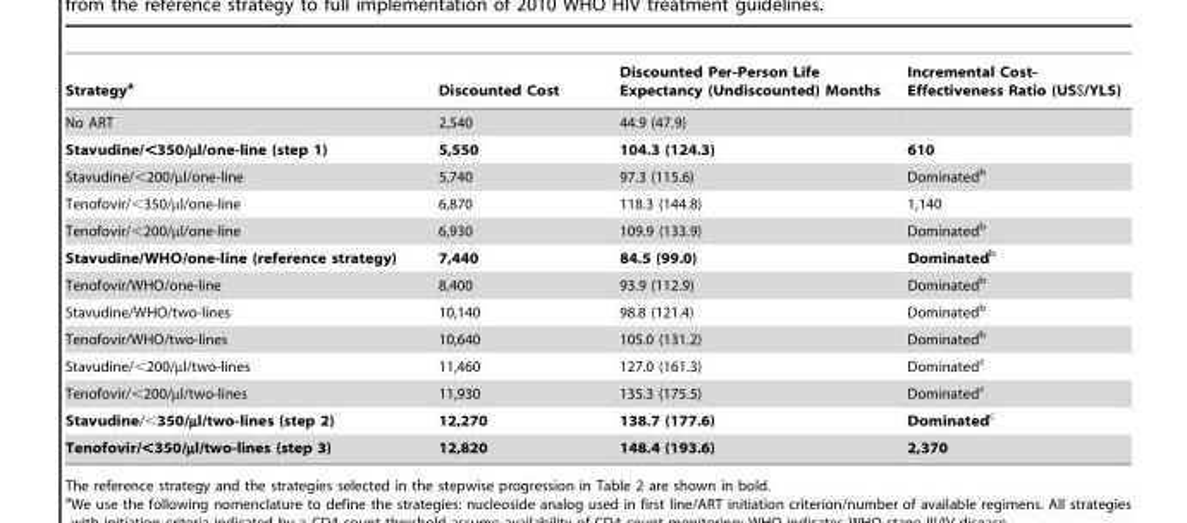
<table><thead><tr><td>Strategy<sup>a</sup></td><td>Discounted Cost</td><td>Discounted Per-Person Life Expectancy (Undiscounted) Months</td><td>Incremental Cost- Effectiveness Ratio (US$/YLS)</td></tr></thead><tbody><tr><td>No ART</td><td>2,540</td><td>44.9 (47.9)</td><td></td></tr><tr><td>Stavudine/&lt;350/µl/one-line (step 1)</td><td>5,550</td><td>104.3 (124.3)</td><td>610</td></tr><tr><td>Stavudine/&lt;200/µl/one-line</td><td>5,740</td><td>97.3 (115.6)</td><td>Dominated<sup>b</sup></td></tr><tr><td>Tenofovir/&lt;350/µl/one-line</td><td>6,870</td><td>118.3 (144.8)</td><td>1,140</td></tr><tr><td>Tenofovir/&lt;200/µl/one-line</td><td>6,930</td><td>109.9 (133.9)</td><td>Dominated<sup>b</sup></td></tr><tr><td>Stavudine/WHO/one-line (reference strategy)</td><td>7,440</td><td>84.5 (99.0)</td><td>Dominatedb</td></tr><tr><td>Tenofovir/WHO/one-line</td><td>8,400</td><td>93.9 (112.9)</td><td>Dominated<sup>b</sup></td></tr><tr><td>Stavudine/WHO/two-lines</td><td>10,140</td><td>98.8 (121.4)</td><td>Dominated<sup>b</sup></td></tr><tr><td>Tenofovir/WHO/two-lines</td><td>10,640</td><td>105.0 (131.2)</td><td>Dominated<sup>b</sup></td></tr><tr><td>Stavudine/&lt;200/µl/two-lines</td><td>11,460</td><td>127.0 (161.3)</td><td>Dominated<sup>c</sup></td></tr><tr><td>Tenofovir/&lt;200/µl/two-lines</td><td>11,930</td><td>135.3 (175.5)</td><td>Dominated<sup>c</sup></td></tr><tr><td>Stavudine/&lt;350/µl/two-lines (step 2)</td><td>12,270</td><td>138.7 (177.6)</td><td>Dominatedc</td></tr><tr><td>Tenofovir/&lt;350/µl/two-lines (step 3)</td><td>12,820</td><td>148.4 (193.6)</td><td>2,370</td></tr></tbody></table>